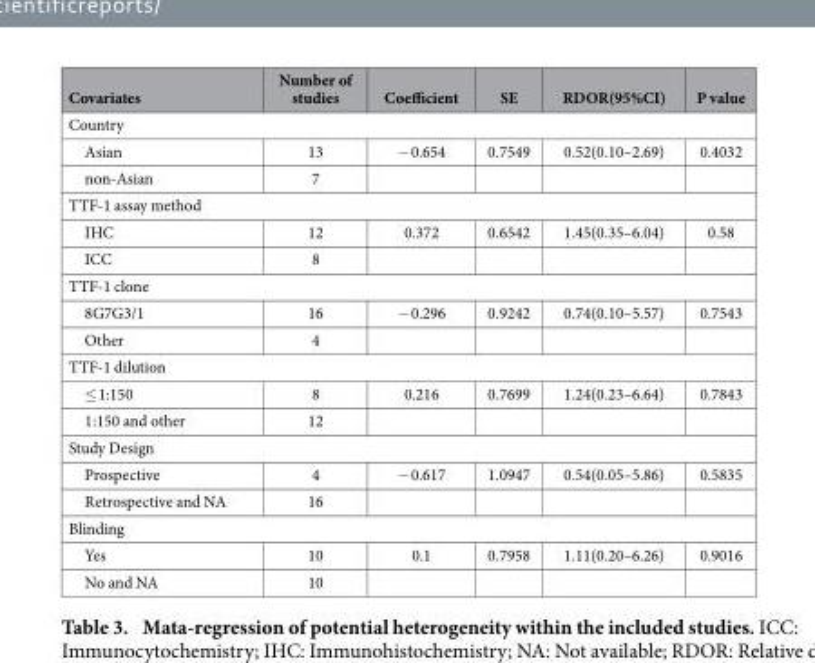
<table><thead><tr><td>Covariates</td><td>Number of studies</td><td>Coefficient</td><td>SE</td><td>RDOR(95%CI)</td><td>P value</td></tr></thead><tbody><tr><td colspan="6">Country</td></tr><tr><td>Asian</td><td>13</td><td>− 0.654</td><td>0.7549</td><td>0.52(0.10–2.69)</td><td>0.4032</td></tr><tr><td>non-Asian</td><td>7</td><td></td><td></td><td></td><td></td></tr><tr><td colspan="6">TTF-1 assay method</td></tr><tr><td>IHC</td><td>12</td><td>0.372</td><td>0.6542</td><td>1.45(0.35–6.04)</td><td>0.58</td></tr><tr><td>ICC</td><td>8</td><td></td><td></td><td></td><td></td></tr><tr><td colspan="6">TTF-1 clone</td></tr><tr><td>8G7G3/1</td><td>16</td><td>− 0.296</td><td>0.9242</td><td>0.74(0.10–5.57)</td><td>0.7543</td></tr><tr><td>Other</td><td>4</td><td></td><td></td><td></td><td></td></tr><tr><td colspan="6">TTF-1 dilution</td></tr><tr><td>≤ 1:150</td><td>8</td><td>0.216</td><td>0.7699</td><td>1.24(0.23–6.64)</td><td>0.7843</td></tr><tr><td>1:150 and other</td><td>12</td><td></td><td></td><td></td><td></td></tr><tr><td colspan="6">Study Design</td></tr><tr><td>Prospective</td><td>4</td><td>− 0.617</td><td>1.0947</td><td>0.54(0.05–5.86)</td><td>0.5835</td></tr><tr><td>Retrospective and NA</td><td>16</td><td></td><td></td><td></td><td></td></tr><tr><td colspan="6">Blinding</td></tr><tr><td>Yes</td><td>10</td><td>0.1</td><td>0.7958</td><td>1.11(0.20–6.26)</td><td>0.9016</td></tr><tr><td>No and NA</td><td>10</td><td></td><td></td><td></td><td></td></tr></tbody></table>